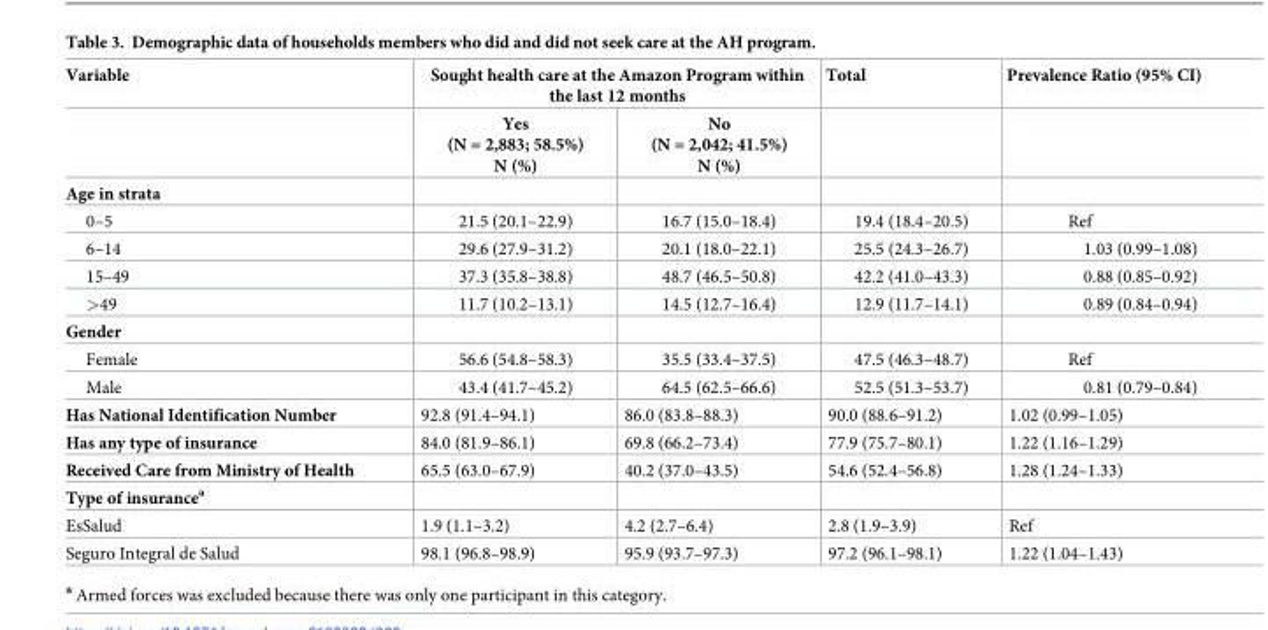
<table><thead><tr><td rowspan="2">Variable</td><td colspan="2">Sought health care at the Amazon Program within the last 12 months</td><td rowspan="2">Total</td><td rowspan="2">Prevalence Ratio (95% CI)</td></tr><tr><td>Yes (N = 2,883; 58.5%) N (%)</td><td>No (N = 2,042; 41.5%) N (%)</td></tr></thead><tbody><tr><td colspan="5">Age in strata</td></tr><tr><td>0–5</td><td>21.5 (20.1–22.9)</td><td>16.7 (15.0–18.4)</td><td>19.4 (18.4–20.5)</td><td>Ref</td></tr><tr><td>6–14</td><td>29.6 (27.9–31.2)</td><td>20.1 (18.0–22.1)</td><td>25.5 (24.3–26.7)</td><td>1.03 (0.99–1.08)</td></tr><tr><td>15–49</td><td>37.3 (35.8–38.8)</td><td>48.7 (46.5–50.8)</td><td>42.2 (41.0–43.3)</td><td>0.88 (0.85–0.92)</td></tr><tr><td>&gt;49</td><td>11.7 (10.2–13.1)</td><td>14.5 (12.7–16.4)</td><td>12.9 (11.7–14.1)</td><td>0.89 (0.84–0.94)</td></tr><tr><td colspan="5">Gender</td></tr><tr><td>Female</td><td>56.6 (54.8–58.3)</td><td>35.5 (33.4–37.5)</td><td>47.5 (46.3–48.7)</td><td>Ref</td></tr><tr><td>Male</td><td>43.4 (41.7–45.2)</td><td>64.5 (62.5–66.6)</td><td>52.5 (51.3–53.7)</td><td>0.81 (0.79–0.84)</td></tr><tr><td>Has National Identification Number</td><td>92.8 (91.4–94.1)</td><td>86.0 (83.8–88.3)</td><td>90.0 (88.6–91.2)</td><td>1.02 (0.99–1.05)</td></tr><tr><td>Has any type of insurance</td><td>84.0 (81.9–86.1)</td><td>69.8 (66.2–73.4)</td><td>77.9 (75.7–80.1)</td><td>1.22 (1.16–1.29)</td></tr><tr><td>Received Care from Ministry of Health</td><td>65.5 (63.0–67.9)</td><td>40.2 (37.0–43.5)</td><td>54.6 (52.4–56.8)</td><td>1.28 (1.24–1.33)</td></tr><tr><td colspan="5">Type of insurance<sup>a</sup></td></tr><tr><td>EsSalud</td><td>1.9 (1.1–3.2)</td><td>4.2 (2.7–6.4)</td><td>2.8 (1.9–3.9)</td><td>Ref</td></tr><tr><td>Seguro Integral de Salud</td><td>98.1 (96.8–98.9)</td><td>95.9 (93.7–97.3)</td><td>97.2 (96.1–98.1)</td><td>1.22 (1.04–1.43)</td></tr></tbody></table>